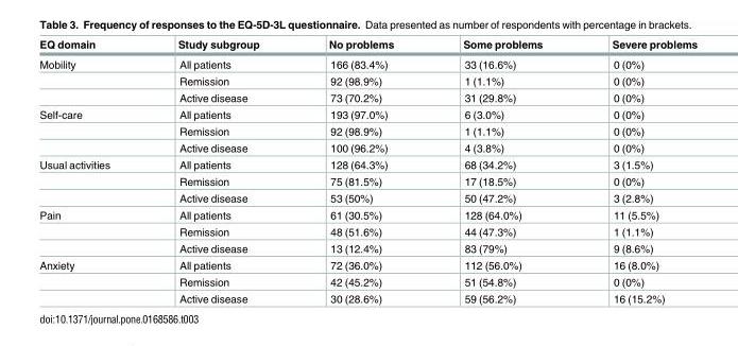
<table><thead><tr><td>EQ domain</td><td>Study subgroup</td><td>No problems</td><td>Some problems</td><td>Severe problems</td></tr></thead><tbody><tr><td rowspan="3">Mobility</td><td>All patients</td><td>166 (83.4%)</td><td>33 (16.6%)</td><td>0 (0%)</td></tr><tr><td>Remission</td><td>92 (98.9%)</td><td>1 (1.1%)</td><td>0 (0%)</td></tr><tr><td>Active disease</td><td>73 (70.2%)</td><td>31 (29.8%)</td><td>0 (0%)</td></tr><tr><td rowspan="3">Self-care</td><td>All patients</td><td>193 (97.0%)</td><td>6 (3.0%)</td><td>0 (0%)</td></tr><tr><td>Remission</td><td>92 (98.9%)</td><td>1 (1.1%)</td><td>0 (0%)</td></tr><tr><td>Active disease</td><td>100 (96.2%)</td><td>4 (3.8%)</td><td>0 (0%)</td></tr><tr><td rowspan="3">Usual activities</td><td>All patients</td><td>128 (64.3%)</td><td>68 (34.2%)</td><td>3 (1.5%)</td></tr><tr><td>Remission</td><td>75 (81.5%)</td><td>17 (18.5%)</td><td>0 (0%)</td></tr><tr><td>Active disease</td><td>53 (50%)</td><td>50 (47.2%)</td><td>3 (2.8%)</td></tr><tr><td rowspan="3">Pain</td><td>All patients</td><td>61 (30.5%)</td><td>128 (64.0%)</td><td>11 (5.5%)</td></tr><tr><td>Remission</td><td>48 (51.6%)</td><td>44 (47.3%)</td><td>1 (1.1%)</td></tr><tr><td>Active disease</td><td>13 (12.4%)</td><td>83 (79%)</td><td>9 (8.6%)</td></tr><tr><td rowspan="3">Anxiety</td><td>All patients</td><td>72 (36.0%)</td><td>112 (56.0%)</td><td>16 (8.0%)</td></tr><tr><td>Remission</td><td>42 (45.2%)</td><td>51 (54.8%)</td><td>0 (0%)</td></tr><tr><td>Active disease</td><td>30 (28.6%)</td><td>59 (56.2%)</td><td>16 (15.2%)</td></tr></tbody></table>